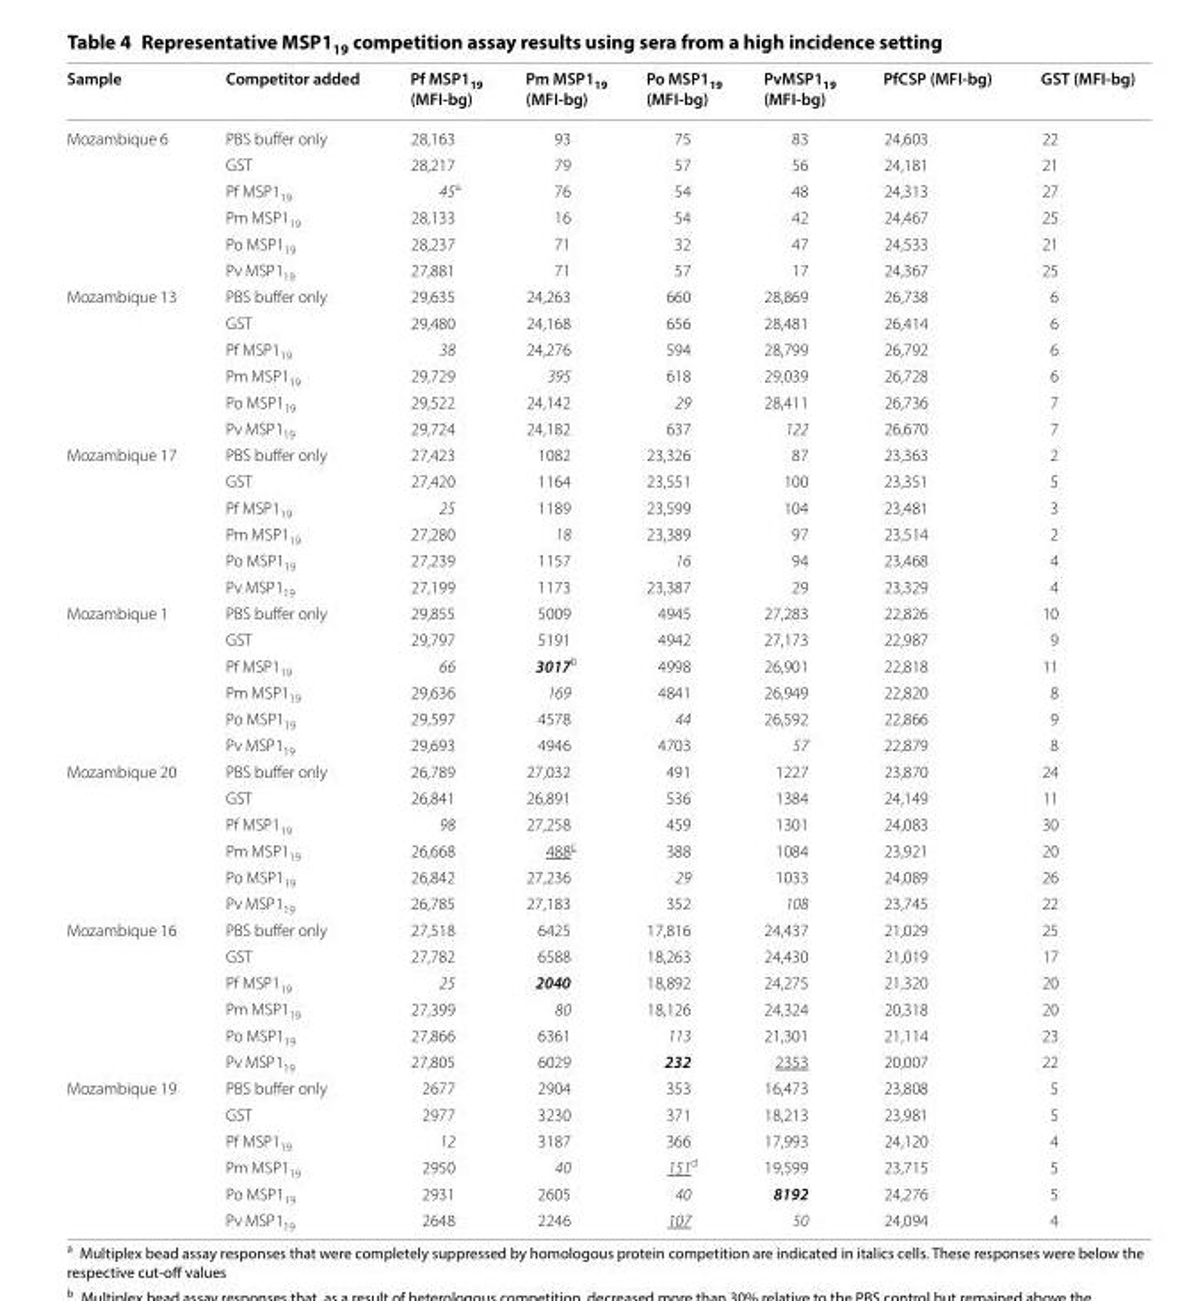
<table><thead><tr><td>Sample</td><td>Competitor added</td><td>Pf MSP1<sub>19</sub> (MFI‑bg)</td><td>Pm MSP1<sub>19</sub> (MFI‑bg)</td><td>Po MSP1<sub>19</sub> (MFI‑bg)</td><td>PvMSP1<sub>19</sub> (MFI‑bg)</td><td>PfCSP (MFI‑bg)</td><td>GST (MFI‑bg)</td></tr></thead><tbody><tr><td rowspan="6">Mozambique 6</td><td>PBS buffer only</td><td>28,163</td><td>93</td><td>75</td><td>83</td><td>24,603</td><td>22</td></tr><tr><td>GST</td><td>28,217</td><td>79</td><td>57</td><td>56</td><td>24,181</td><td>21</td></tr><tr><td>Pf MSP1<sub>19</sub></td><td>45<sup>a</sup></td><td>76</td><td>54</td><td>48</td><td>24,313</td><td>27</td></tr><tr><td>Pm MSP1<sub>19</sub></td><td>28,133</td><td>16</td><td>54</td><td>42</td><td>24,467</td><td>25</td></tr><tr><td>Po MSP1<sub>19</sub></td><td>28,237</td><td>71</td><td>32</td><td>47</td><td>24,533</td><td>21</td></tr><tr><td>Pv MSP1<sub>19</sub></td><td>27,881</td><td>71</td><td>57</td><td>17</td><td>24,367</td><td>25</td></tr><tr><td rowspan="6">Mozambique 13</td><td>PBS buffer only</td><td>29,635</td><td>24,263</td><td>660</td><td>28,869</td><td>26,738</td><td>6</td></tr><tr><td>GST</td><td>29,480</td><td>24,168</td><td>656</td><td>28,481</td><td>26,414</td><td>6</td></tr><tr><td>Pf MSP1<sub>19</sub></td><td>38</td><td>24,276</td><td>594</td><td>28,799</td><td>26,792</td><td>6</td></tr><tr><td>Pm MSP1<sub>19</sub></td><td>29,729</td><td>395</td><td>618</td><td>29,039</td><td>26,728</td><td>6</td></tr><tr><td>Po MSP1<sub>19</sub></td><td>29,522</td><td>24,142</td><td>29</td><td>28,411</td><td>26,736</td><td>7</td></tr><tr><td>Pv MSP1<sub>19</sub></td><td>29,724</td><td>24,182</td><td>637</td><td>122</td><td>26,670</td><td>7</td></tr><tr><td rowspan="6">Mozambique 17</td><td>PBS buffer only</td><td>27,423</td><td>1082</td><td>23,326</td><td>87</td><td>23,363</td><td>2</td></tr><tr><td>GST</td><td>27,420</td><td>1164</td><td>23,551</td><td>100</td><td>23,351</td><td>5</td></tr><tr><td>Pf MSP1<sub>19</sub></td><td>25</td><td>1189</td><td>23,599</td><td>104</td><td>23,481</td><td>3</td></tr><tr><td>Pm MSP1<sub>19</sub></td><td>27,280</td><td>18</td><td>23,389</td><td>97</td><td>23,514</td><td>2</td></tr><tr><td>Po MSP1<sub>19</sub></td><td>27,239</td><td>1157</td><td>16</td><td>94</td><td>23,468</td><td>4</td></tr><tr><td>Pv MSP1<sub>19</sub></td><td>27,199</td><td>1173</td><td>23,387</td><td>29</td><td>23,329</td><td>4</td></tr><tr><td rowspan="6">Mozambique 1</td><td>PBS buffer only</td><td>29,855</td><td>5009</td><td>4945</td><td>27,283</td><td>22,826</td><td>10</td></tr><tr><td>GST</td><td>29,797</td><td>5191</td><td>4942</td><td>27,173</td><td>22,987</td><td>9</td></tr><tr><td>Pf MSP1<sub>19</sub></td><td>66</td><td>3017<sup>b</sup></td><td>4998</td><td>26,901</td><td>22,818</td><td>11</td></tr><tr><td>Pm MSP1<sub>19</sub></td><td>29,636</td><td>169</td><td>4841</td><td>26,949</td><td>22,820</td><td>8</td></tr><tr><td>Po MSP1<sub>19</sub></td><td>29,597</td><td>4578</td><td>44</td><td>26,592</td><td>22,866</td><td>9</td></tr><tr><td>Pv MSP1<sub>19</sub></td><td>29,693</td><td>4946</td><td>4703</td><td>57</td><td>22,879</td><td>8</td></tr><tr><td rowspan="6">Mozambique 20</td><td>PBS buffer only</td><td>26,789</td><td>27,032</td><td>491</td><td>1227</td><td>23,870</td><td>24</td></tr><tr><td>GST</td><td>26,841</td><td>26,891</td><td>536</td><td>1384</td><td>24,149</td><td>11</td></tr><tr><td>Pf MSP1<sub>19</sub></td><td>98</td><td>27,258</td><td>459</td><td>1301</td><td>24,083</td><td>30</td></tr><tr><td>Pm MSP1<sub>19</sub></td><td>26,668</td><td>488<sup>c</sup></td><td>388</td><td>1084</td><td>23,921</td><td>20</td></tr><tr><td>Po MSP1<sub>19</sub></td><td>26,842</td><td>27,236</td><td>29</td><td>1033</td><td>24,089</td><td>26</td></tr><tr><td>Pv MSP1<sub>19</sub></td><td>26,785</td><td>27,183</td><td>352</td><td>108</td><td>23,745</td><td>22</td></tr><tr><td rowspan="6">Mozambique 16</td><td>PBS buffer only</td><td>27,518</td><td>6425</td><td>17,816</td><td>24,437</td><td>21,029</td><td>25</td></tr><tr><td>GST</td><td>27,782</td><td>6588</td><td>18,263</td><td>24,430</td><td>21,019</td><td>17</td></tr><tr><td>Pf MSP1<sub>19</sub></td><td>25</td><td>2040</td><td>18,892</td><td>24,275</td><td>21,320</td><td>20</td></tr><tr><td>Pm MSP1<sub>19</sub></td><td>27,399</td><td>80</td><td>18,126</td><td>24,324</td><td>20,318</td><td>20</td></tr><tr><td>Po MSP1<sub>19</sub></td><td>27,866</td><td>6361</td><td>113</td><td>21,301</td><td>21,114</td><td>23</td></tr><tr><td>Pv MSP1<sub>19</sub></td><td>27,805</td><td>6029</td><td>232</td><td>2353</td><td>20,007</td><td>22</td></tr><tr><td rowspan="6">Mozambique 19</td><td>PBS buffer only</td><td>2677</td><td>2904</td><td>353</td><td>16,473</td><td>23,808</td><td>5</td></tr><tr><td>GST</td><td>2977</td><td>3230</td><td>371</td><td>18,213</td><td>23,981</td><td>5</td></tr><tr><td>Pf MSP1<sub>19</sub></td><td>12</td><td>3187</td><td>366</td><td>17,993</td><td>24,120</td><td>4</td></tr><tr><td>Pm MSP1<sub>19</sub></td><td>2950</td><td>40</td><td>151<sup>d</sup></td><td>19,599</td><td>23,715</td><td>5</td></tr><tr><td>Po MSP1<sub>19</sub></td><td>2931</td><td>2605</td><td>40</td><td>8192</td><td>24,276</td><td>5</td></tr><tr><td>Pv MSP1<sub>19</sub></td><td>2648</td><td>2246</td><td>107</td><td>50</td><td>24,094</td><td>4</td></tr></tbody></table>